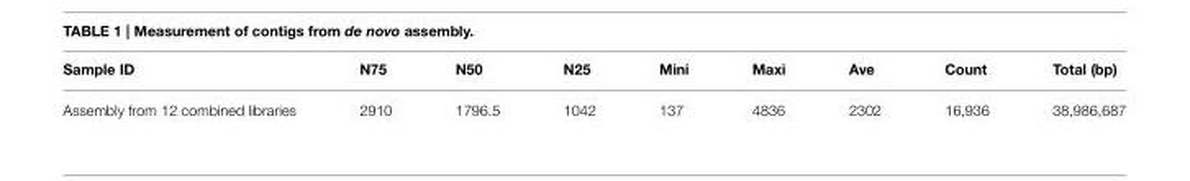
<table><thead><tr><td>Sample ID</td><td>N75</td><td>N50</td><td>N25</td><td>Mini</td><td>Maxi</td><td>Ave</td><td>Count</td><td>Total (bp)</td></tr></thead><tbody><tr><td>Assembly from 12 combined libraries</td><td>2910</td><td>1796.5</td><td>1042</td><td>137</td><td>4836</td><td>2302</td><td>16,936</td><td>38,986,687</td></tr></tbody></table>